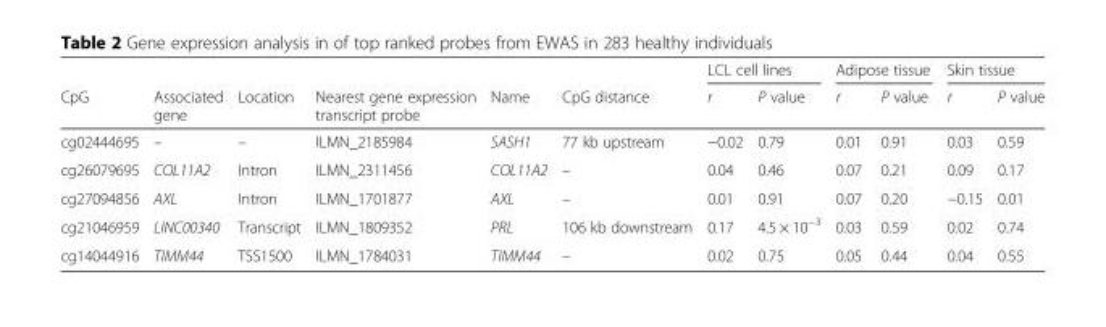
<table><thead><tr><td rowspan="2">CpG</td><td rowspan="2">Associated gene</td><td rowspan="2">Location</td><td rowspan="2">Nearest gene expression transcript probe</td><td rowspan="2">Name</td><td rowspan="2">CpG distance</td><td colspan="2">LCL cell lines</td><td colspan="2">Adipose tissue</td><td colspan="2">Skin tissue</td></tr><tr><td>r</td><td>P value</td><td>r</td><td>P value</td><td>r</td><td>P value</td></tr></thead><tbody><tr><td>cg02444695</td><td>–</td><td>–</td><td>ILMN_2185984</td><td>SASH1</td><td>77 kb upstream</td><td>−0.02</td><td>0.79</td><td>0.01</td><td>0.91</td><td>0.03</td><td>0.59</td></tr><tr><td>cg26079695</td><td>COL11A2</td><td>Intron</td><td>ILMN_2311456</td><td>COL11A2</td><td>–</td><td>0.04</td><td>0.46</td><td>0.07</td><td>0.21</td><td>0.09</td><td>0.17</td></tr><tr><td>cg27094856</td><td>AXL</td><td>Intron</td><td>ILMN_1701877</td><td>AXL</td><td>–</td><td>0.01</td><td>0.91</td><td>0.07</td><td>0.20</td><td>−0.15</td><td>0.01</td></tr><tr><td>cg21046959</td><td>LINC00340</td><td>Transcript</td><td>ILMN_1809352</td><td>PRL</td><td>106 kb downstream</td><td>0.17</td><td>4.5 × 10<sup>−3</sup></td><td>0.03</td><td>0.59</td><td>0.02</td><td>0.74</td></tr><tr><td>cg14044916</td><td>TIMM44</td><td>TSS1500</td><td>ILMN_1784031</td><td>TIMM44</td><td>–</td><td>0.02</td><td>0.75</td><td>0.05</td><td>0.44</td><td>0.04</td><td>0.55</td></tr></tbody></table>